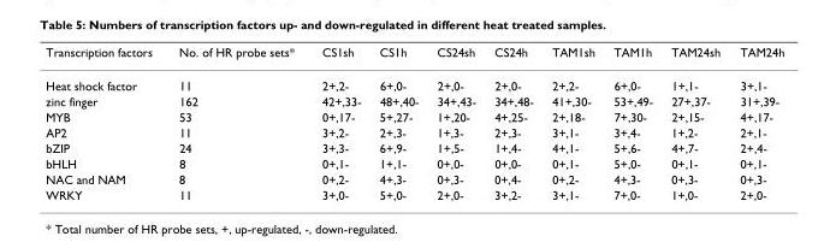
<table><thead><tr><td>Transcription factors</td><td>No. of HR probe sets*</td><td>CS1sh</td><td>CS1h</td><td>CS24sh</td><td>CS24h</td><td>TAM1sh</td><td>TAM1h</td><td>TAM24sh</td><td>TAM24h</td></tr></thead><tbody><tr><td>Heat shock factor</td><td>11</td><td>2+,2-</td><td>6+,0-</td><td>2+,0-</td><td>2+,0-</td><td>2+,2-</td><td>6+,0-</td><td>1+,1-</td><td>3+,1-</td></tr><tr><td>zinc finger</td><td>162</td><td>42+,33-</td><td>48+,40-</td><td>34+,43-</td><td>34+,48-</td><td>41+,30-</td><td>53+,49-</td><td>27+,37-</td><td>31+,39-</td></tr><tr><td>MYB</td><td>53</td><td>0+,17-</td><td>5+,27-</td><td>1+,20-</td><td>4+,25-</td><td>2+,18-</td><td>7+,30-</td><td>2+,15-</td><td>4+,17-</td></tr><tr><td>AP2</td><td>11</td><td>3+,2-</td><td>2+,3-</td><td>1+,3-</td><td>2+,3-</td><td>3+,1-</td><td>3+,4-</td><td>1+,2-</td><td>2+,1-</td></tr><tr><td>bZIP</td><td>24</td><td>3+,3-</td><td>6+,9-</td><td>1+,5-</td><td>1+,4-</td><td>4+,1-</td><td>5+,6-</td><td>4+,7-</td><td>2+,4-</td></tr><tr><td>bHLH</td><td>8</td><td>0+,1-</td><td>1+,1-</td><td>0+,0-</td><td>0+,0-</td><td>0+,1-</td><td>5+,0-</td><td>0+,1-</td><td>0+,1-</td></tr><tr><td>NAC and NAM</td><td>8</td><td>0+,2-</td><td>4+,3-</td><td>0+,3-</td><td>0+,4-</td><td>0+,2-</td><td>4+,3-</td><td>0+,3-</td><td>0+,3-</td></tr><tr><td>WRKY</td><td>11</td><td>3+,0-</td><td>5+,0-</td><td>2+,0-</td><td>3+,2-</td><td>3+,1-</td><td>7+,0-</td><td>1+,0-</td><td>2+,0-</td></tr></tbody></table>